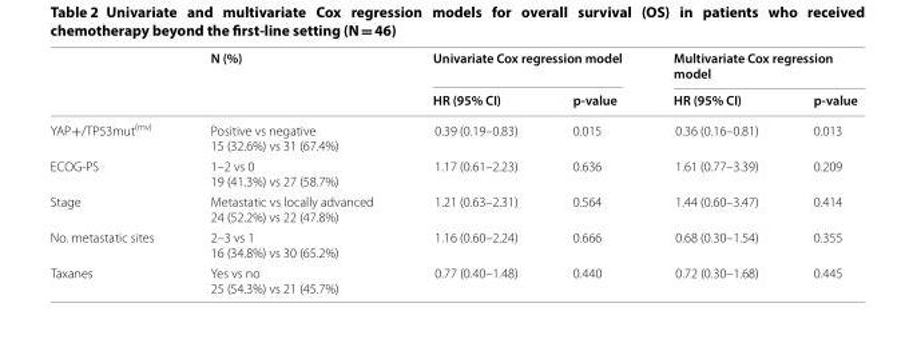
<table><thead><tr><td rowspan="2"></td><td rowspan="2">N (%)</td><td colspan="2">Univariate Cox regression model</td><td colspan="2">Multivariate Cox regression model</td></tr><tr><td>HR (95% CI)</td><td>p‑value</td><td>HR (95% CI)</td><td>p‑value</td></tr></thead><tbody><tr><td>YAP+/TP53mut<sup>(mv)</sup></td><td>Positive vs negative 15 (32.6%) vs 31 (67.4%)</td><td>0.39 (0.19–0.83)</td><td>0.015</td><td>0.36 (0.16–0.81)</td><td>0.013</td></tr><tr><td>ECOG‑PS</td><td>1–2 vs 0 19 (41.3%) vs 27 (58.7%)</td><td>1.17 (0.61–2.23)</td><td>0.636</td><td>1.61 (0.77–3.39)</td><td>0.209</td></tr><tr><td>Stage</td><td>Metastatic vs locally advanced 24 (52.2%) vs 22 (47.8%)</td><td>1.21 (0.63–2.31)</td><td>0.564</td><td>1.44 (0.60–3.47)</td><td>0.414</td></tr><tr><td>No. metastatic sites</td><td>2–3 vs 1 16 (34.8%) vs 30 (65.2%)</td><td>1.16 (0.60–2.24)</td><td>0.666</td><td>0.68 (0.30–1.54)</td><td>0.355</td></tr><tr><td>Taxanes</td><td>Yes vs no 25 (54.3%) vs 21 (45.7%)</td><td>0.77 (0.40–1.48)</td><td>0.440</td><td>0.72 (0.30–1.68)</td><td>0.445</td></tr></tbody></table>